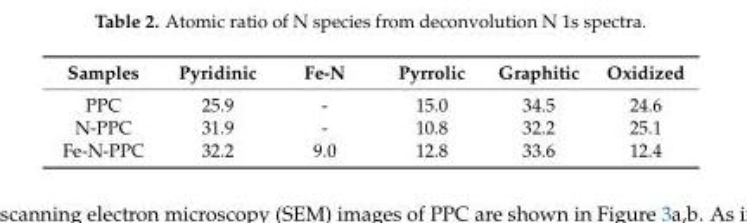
<table><thead><tr><td>Samples</td><td>Pyridinic</td><td>Fe-N</td><td>Pyrrolic</td><td>Graphitic</td><td>Oxidized</td></tr></thead><tbody><tr><td>PPC</td><td>25.9</td><td>-</td><td>15.0</td><td>34.5</td><td>24.6</td></tr><tr><td>N-PPC</td><td>31.9</td><td>-</td><td>10.8</td><td>32.2</td><td>25.1</td></tr><tr><td>Fe-N-PPC</td><td>32.2</td><td>9.0</td><td>12.8</td><td>33.6</td><td>12.4</td></tr></tbody></table>